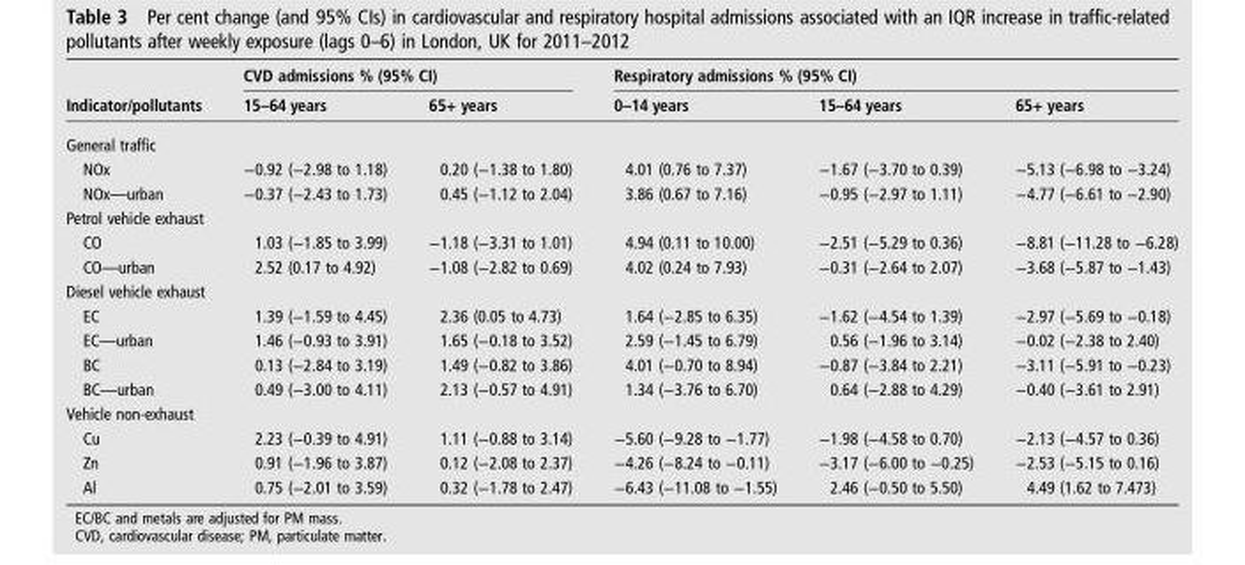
<table><thead><tr><td rowspan="2">Indicator/pollutants</td><td colspan="2">CVD admissions % (95% CI)</td><td colspan="3">Respiratory admissions % (95% CI)</td></tr><tr><td>15–64 years</td><td>65+ years</td><td>0–14 years</td><td>15–64 years</td><td>65+ years</td></tr></thead><tbody><tr><td colspan="6">General traffic</td></tr><tr><td>NOx</td><td>−0.92 (−2.98 to 1.18)</td><td>0.20 (−1.38 to 1.80)</td><td>4.01 (0.76 to 7.37)</td><td>−1.67 (−3.70 to 0.39)</td><td>−5.13 (−6.98 to −3.24)</td></tr><tr><td>NOx—urban</td><td>−0.37 (−2.43 to 1.73)</td><td>0.45 (−1.12 to 2.04)</td><td>3.86 (0.67 to 7.16)</td><td>−0.95 (−2.97 to 1.11)</td><td>−4.77 (−6.61 to −2.90)</td></tr><tr><td colspan="6">Petrol vehicle exhaust</td></tr><tr><td>CO</td><td>1.03 (−1.85 to 3.99)</td><td>−1.18 (−3.31 to 1.01)</td><td>4.94 (0.11 to 10.00)</td><td>−2.51 (−5.29 to 0.36)</td><td>−8.81 (−11.28 to −6.28)</td></tr><tr><td>CO—urban</td><td>2.52 (0.17 to 4.92)</td><td>−1.08 (−2.82 to 0.69)</td><td>4.02 (0.24 to 7.93)</td><td>−0.31 (−2.64 to 2.07)</td><td>−3.68 (−5.87 to −1.43)</td></tr><tr><td colspan="6">Diesel vehicle exhaust</td></tr><tr><td>EC</td><td>1.39 (−1.59 to 4.45)</td><td>2.36 (0.05 to 4.73)</td><td>1.64 (−2.85 to 6.35)</td><td>−1.62 (−4.54 to 1.39)</td><td>−2.97 (−5.69 to −0.18)</td></tr><tr><td>EC—urban</td><td>1.46 (−0.93 to 3.91)</td><td>1.65 (−0.18 to 3.52)</td><td>2.59 (−1.45 to 6.79)</td><td>0.56 (−1.96 to 3.14)</td><td>−0.02 (−2.38 to 2.40)</td></tr><tr><td>BC</td><td>0.13 (−2.84 to 3.19)</td><td>1.49 (−0.82 to 3.86)</td><td>4.01 (−0.70 to 8.94)</td><td>−0.87 (−3.84 to 2.21)</td><td>−3.11 (−5.91 to −0.23)</td></tr><tr><td>BC—urban</td><td>0.49 (−3.00 to 4.11)</td><td>2.13 (−0.57 to 4.91)</td><td>1.34 (−3.76 to 6.70)</td><td>0.64 (−2.88 to 4.29)</td><td>−0.40 (−3.61 to 2.91)</td></tr><tr><td colspan="6">Vehicle non-exhaust</td></tr><tr><td>Cu</td><td>2.23 (−0.39 to 4.91)</td><td>1.11 (−0.88 to 3.14)</td><td>−5.60 (−9.28 to −1.77)</td><td>−1.98 (−4.58 to 0.70)</td><td>−2.13 (−4.57 to 0.36)</td></tr><tr><td>Zn</td><td>0.91 (−1.96 to 3.87)</td><td>0.12 (−2.08 to 2.37)</td><td>−4.26 (−8.24 to −0.11)</td><td>−3.17 (−6.00 to −0.25)</td><td>−2.53 (−5.15 to 0.16)</td></tr><tr><td>Al</td><td>0.75 (−2.01 to 3.59)</td><td>0.32 (−1.78 to 2.47)</td><td>−6.43 (−11.08 to −1.55)</td><td>2.46 (−0.50 to 5.50)</td><td>4.49 (1.62 to 7.473)</td></tr></tbody></table>